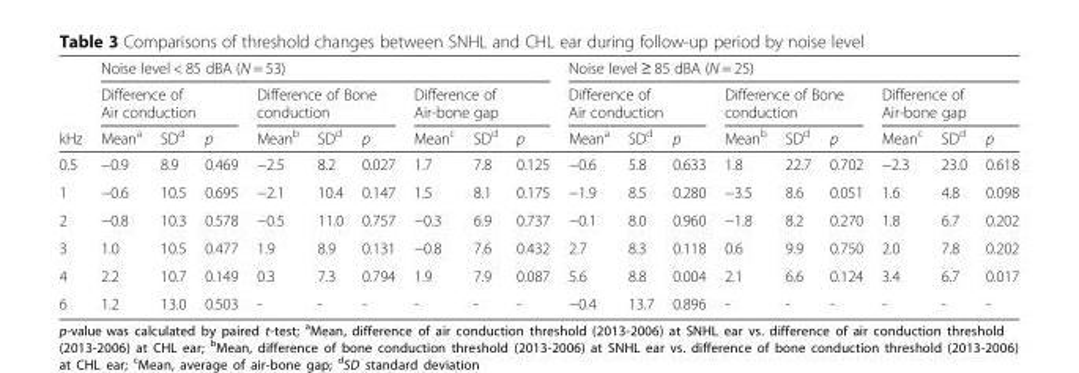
<table><thead><tr><td rowspan="3">kHz</td><td colspan="9">Noise level &lt; 85 dBA (N = 53)</td><td colspan="9">Noise level ≥ 85 dBA (N = 25)</td></tr><tr><td colspan="3">Difference of Air conduction</td><td colspan="3">Difference of Bone conduction</td><td colspan="3">Difference of Air-bone gap</td><td colspan="3">Difference of Air conduction</td><td colspan="3">Difference of Bone conduction</td><td colspan="3">Difference of Air-bone gap</td></tr><tr><td>Mean<sup>a</sup></td><td>SD<sup>d</sup></td><td>p</td><td>Mean<sup>b</sup></td><td>SD<sup>d</sup></td><td>p</td><td>Mean<sup>c</sup></td><td>SD<sup>d</sup></td><td>p</td><td>Mean<sup>a</sup></td><td>SD<sup>d</sup></td><td>p</td><td>Mean<sup>b</sup></td><td>SD<sup>d</sup></td><td>p</td><td>Mean<sup>c</sup></td><td>SD<sup>d</sup></td><td>p</td></tr></thead><tbody><tr><td>0.5</td><td>−0.9</td><td>8.9</td><td>0.469</td><td>−2.5</td><td>8.2</td><td>0.027</td><td>1.7</td><td>7.8</td><td>0.125</td><td>−0.6</td><td>5.8</td><td>0.633</td><td>1.8</td><td>22.7</td><td>0.702</td><td>−2.3</td><td>23.0</td><td>0.618</td></tr><tr><td>1</td><td>−0.6</td><td>10.5</td><td>0.695</td><td>−2.1</td><td>10.4</td><td>0.147</td><td>1.5</td><td>8.1</td><td>0.175</td><td>−1.9</td><td>8.5</td><td>0.280</td><td>−3.5</td><td>8.6</td><td>0.051</td><td>1.6</td><td>4.8</td><td>0.098</td></tr><tr><td>2</td><td>−0.8</td><td>10.3</td><td>0.578</td><td>−0.5</td><td>11.0</td><td>0.757</td><td>−0.3</td><td>6.9</td><td>0.737</td><td>−0.1</td><td>8.0</td><td>0.960</td><td>−1.8</td><td>8.2</td><td>0.270</td><td>1.8</td><td>6.7</td><td>0.202</td></tr><tr><td>3</td><td>1.0</td><td>10.5</td><td>0.477</td><td>1.9</td><td>8.9</td><td>0.131</td><td>−0.8</td><td>7.6</td><td>0.432</td><td>2.7</td><td>8.3</td><td>0.118</td><td>0.6</td><td>9.9</td><td>0.750</td><td>2.0</td><td>7.8</td><td>0.202</td></tr><tr><td>4</td><td>2.2</td><td>10.7</td><td>0.149</td><td>0.3</td><td>7.3</td><td>0.794</td><td>1.9</td><td>7.9</td><td>0.087</td><td>5.6</td><td>8.8</td><td>0.004</td><td>2.1</td><td>6.6</td><td>0.124</td><td>3.4</td><td>6.7</td><td>0.017</td></tr><tr><td>6</td><td>1.2</td><td>13.0</td><td>0.503</td><td>-</td><td>-</td><td>-</td><td>-</td><td>-</td><td>-</td><td>−0.4</td><td>13.7</td><td>0.896</td><td>-</td><td>-</td><td>-</td><td>-</td><td>-</td><td>-</td></tr></tbody></table>